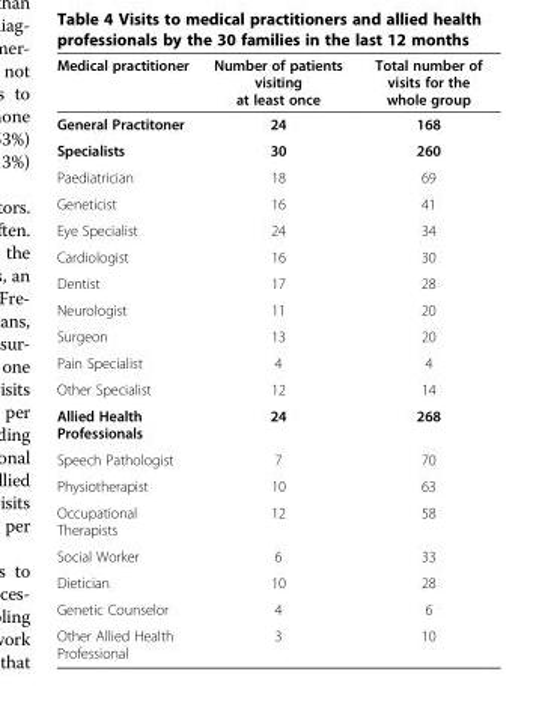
<table><thead><tr><td>Medical practitioner</td><td>Number of patients visiting at least once</td><td>Total number of visits for the whole group</td></tr></thead><tbody><tr><td>General Practitoner</td><td>24</td><td>168</td></tr><tr><td>Specialists</td><td>30</td><td>260</td></tr><tr><td>Paediatrician</td><td>18</td><td>69</td></tr><tr><td>Geneticist</td><td>16</td><td>41</td></tr><tr><td>Eye Specialist</td><td>24</td><td>34</td></tr><tr><td>Cardiologist</td><td>16</td><td>30</td></tr><tr><td>Dentist</td><td>17</td><td>28</td></tr><tr><td>Neurologist</td><td>11</td><td>20</td></tr><tr><td>Surgeon</td><td>13</td><td>20</td></tr><tr><td>Pain Specialist</td><td>4</td><td>4</td></tr><tr><td>Other Specialist</td><td>12</td><td>14</td></tr><tr><td>Allied Health Professionals</td><td>24</td><td>268</td></tr><tr><td>Speech Pathologist</td><td>7</td><td>70</td></tr><tr><td>Physiotherapist</td><td>10</td><td>63</td></tr><tr><td>Occupational Therapists</td><td>12</td><td>58</td></tr><tr><td>Social Worker</td><td>6</td><td>33</td></tr><tr><td>Dietician</td><td>10</td><td>28</td></tr><tr><td>Genetic Counselor</td><td>4</td><td>6</td></tr><tr><td>Other Allied Health Professional</td><td>3</td><td>10</td></tr></tbody></table>